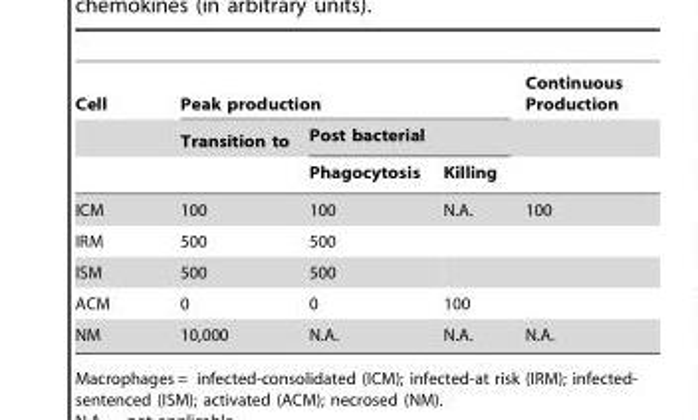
<table><thead><tr><td rowspan="3">Cell</td><td colspan="3">Peak production</td><td rowspan="3">Continuous Production</td></tr><tr><td rowspan="2">Transition to</td><td colspan="2">Post bacterial</td></tr><tr><td>Phagocytosis</td><td>Killing</td></tr></thead><tbody><tr><td>ICM</td><td>100</td><td>100</td><td>N.A.</td><td>100</td></tr><tr><td>IRM</td><td>500</td><td>500</td><td></td><td></td></tr><tr><td>ISM</td><td>500</td><td>500</td><td></td><td></td></tr><tr><td>ACM</td><td>0</td><td>0</td><td>100</td><td></td></tr><tr><td>NM</td><td>10,000</td><td>N.A.</td><td>N.A.</td><td>N.A.</td></tr></tbody></table>